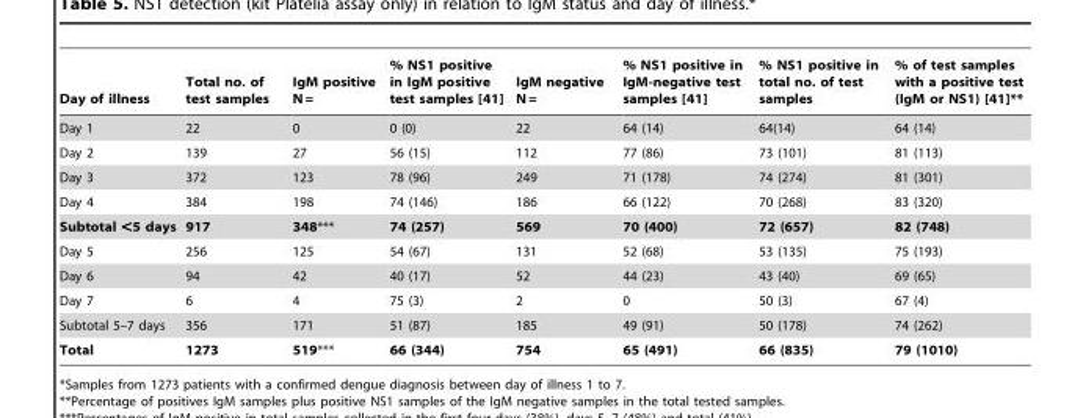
<table><thead><tr><td>Day of illness</td><td>Total no. of test samples</td><td>IgM positive N =</td><td>% NS1 positive in IgM positive test samples [41]</td><td>IgM negative N =</td><td>% NS1 positive in IgM-negative test samples [41]</td><td>% NS1 positive in total no. of test samples</td><td>% of test samples with a positive test (IgM or NS1) [41]**</td></tr></thead><tbody><tr><td>Day 1</td><td>22</td><td>0</td><td>0 (0)</td><td>22</td><td>64 (14)</td><td>64(14)</td><td>64 (14)</td></tr><tr><td>Day 2</td><td>139</td><td>27</td><td>56 (15)</td><td>112</td><td>77 (86)</td><td>73 (101)</td><td>81 (113)</td></tr><tr><td>Day 3</td><td>372</td><td>123</td><td>78 (96)</td><td>249</td><td>71 (178)</td><td>74 (274)</td><td>81 (301)</td></tr><tr><td>Day 4</td><td>384</td><td>198</td><td>74 (146)</td><td>186</td><td>66 (122)</td><td>70 (268)</td><td>83 (320)</td></tr><tr><td>Subtotal &lt;5 days</td><td>917</td><td>348***</td><td>74 (257)</td><td>569</td><td>70 (400)</td><td>72 (657)</td><td>82 (748)</td></tr><tr><td>Day 5</td><td>256</td><td>125</td><td>54 (67)</td><td>131</td><td>52 (68)</td><td>53 (135)</td><td>75 (193)</td></tr><tr><td>Day 6</td><td>94</td><td>42</td><td>40 (17)</td><td>52</td><td>44 (23)</td><td>43 (40)</td><td>69 (65)</td></tr><tr><td>Day 7</td><td>6</td><td>4</td><td>75 (3)</td><td>2</td><td>0</td><td>50 (3)</td><td>67 (4)</td></tr><tr><td>Subtotal 5–7 days</td><td>356</td><td>171</td><td>51 (87)</td><td>185</td><td>49 (91)</td><td>50 (178)</td><td>74 (262)</td></tr><tr><td>Total</td><td>1273</td><td>519***</td><td>66 (344)</td><td>754</td><td>65 (491)</td><td>66 (835)</td><td>79 (1010)</td></tr></tbody></table>